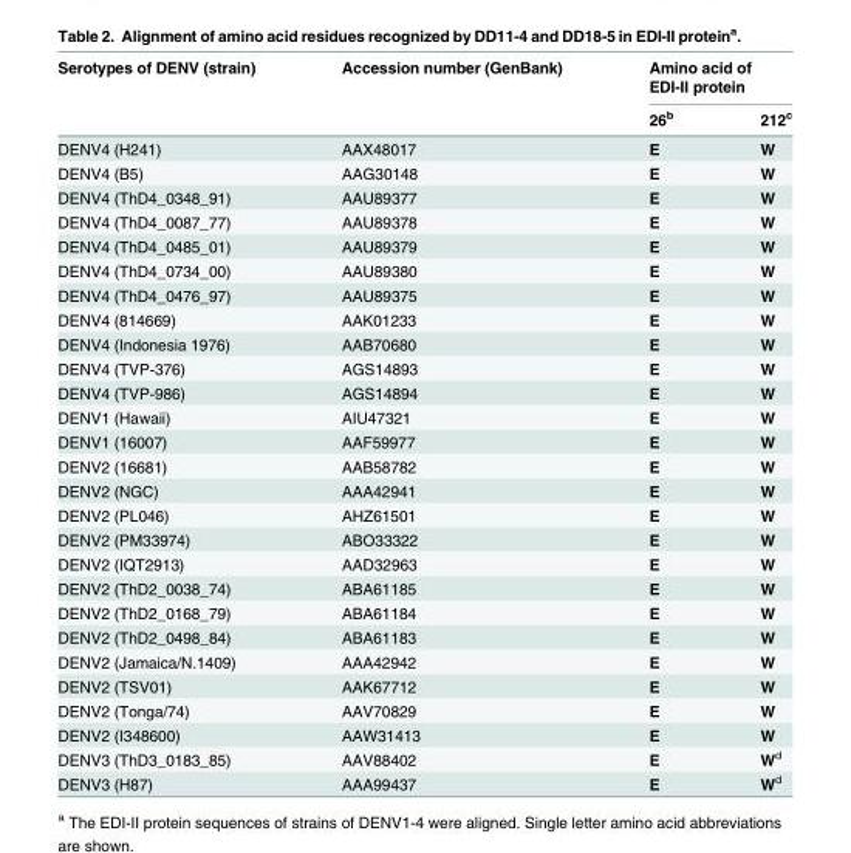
<table><thead><tr><td rowspan="2">Serotypes of DENV (strain)</td><td rowspan="2">Accession number (GenBank)</td><td colspan="2">Amino acid of EDI-II protein</td></tr><tr><td>26<sup>b</sup></td><td>212<sup>c</sup></td></tr></thead><tbody><tr><td>DENV4 (H241)</td><td>AAX48017</td><td>E</td><td>W</td></tr><tr><td>DENV4 (B5)</td><td>AAG30148</td><td>E</td><td>W</td></tr><tr><td>DENV4 (ThD4_0348_91)</td><td>AAU89377</td><td>E</td><td>W</td></tr><tr><td>DENV4 (ThD4_0087_77)</td><td>AAU89378</td><td>E</td><td>W</td></tr><tr><td>DENV4 (ThD4_0485_01)</td><td>AAU89379</td><td>E</td><td>W</td></tr><tr><td>DENV4 (ThD4_0734_00)</td><td>AAU89380</td><td>E</td><td>W</td></tr><tr><td>DENV4 (ThD4_0476_97)</td><td>AAU89375</td><td>E</td><td>W</td></tr><tr><td>DENV4 (814669)</td><td>AAK01233</td><td>E</td><td>W</td></tr><tr><td>DENV4 (Indonesia 1976)</td><td>AAB70680</td><td>E</td><td>W</td></tr><tr><td>DENV4 (TVP-376)</td><td>AGS14893</td><td>E</td><td>W</td></tr><tr><td>DENV4 (TVP-986)</td><td>AGS14894</td><td>E</td><td>W</td></tr><tr><td>DENV1 (Hawaii)</td><td>AIU47321</td><td>E</td><td>W</td></tr><tr><td>DENV1 (16007)</td><td>AAF59977</td><td>E</td><td>W</td></tr><tr><td>DENV2 (16681)</td><td>AAB58782</td><td>E</td><td>W</td></tr><tr><td>DENV2 (NGC)</td><td>AAA42941</td><td>E</td><td>W</td></tr><tr><td>DENV2 (PL046)</td><td>AHZ61501</td><td>E</td><td>W</td></tr><tr><td>DENV2 (PM33974)</td><td>ABO33322</td><td>E</td><td>W</td></tr><tr><td>DENV2 (IQT2913)</td><td>AAD32963</td><td>E</td><td>W</td></tr><tr><td>DENV2 (ThD2_0038_74)</td><td>ABA61185</td><td>E</td><td>W</td></tr><tr><td>DENV2 (ThD2_0168_79)</td><td>ABA61184</td><td>E</td><td>W</td></tr><tr><td>DENV2 (ThD2_0498_84)</td><td>ABA61183</td><td>E</td><td>W</td></tr><tr><td>DENV2 (Jamaica/N.1409)</td><td>AAA42942</td><td>E</td><td>W</td></tr><tr><td>DENV2 (TSV01)</td><td>AAK67712</td><td>E</td><td>W</td></tr><tr><td>DENV2 (Tonga/74)</td><td>AAV70829</td><td>E</td><td>W</td></tr><tr><td>DENV2 (I348600)</td><td>AAW31413</td><td>E</td><td>W</td></tr><tr><td>DENV3 (ThD3_0183_85)</td><td>AAV88402</td><td>E</td><td>W<sup>d</sup></td></tr><tr><td>DENV3 (H87)</td><td>AAA99437</td><td>E</td><td>W<sup>d</sup></td></tr></tbody></table>